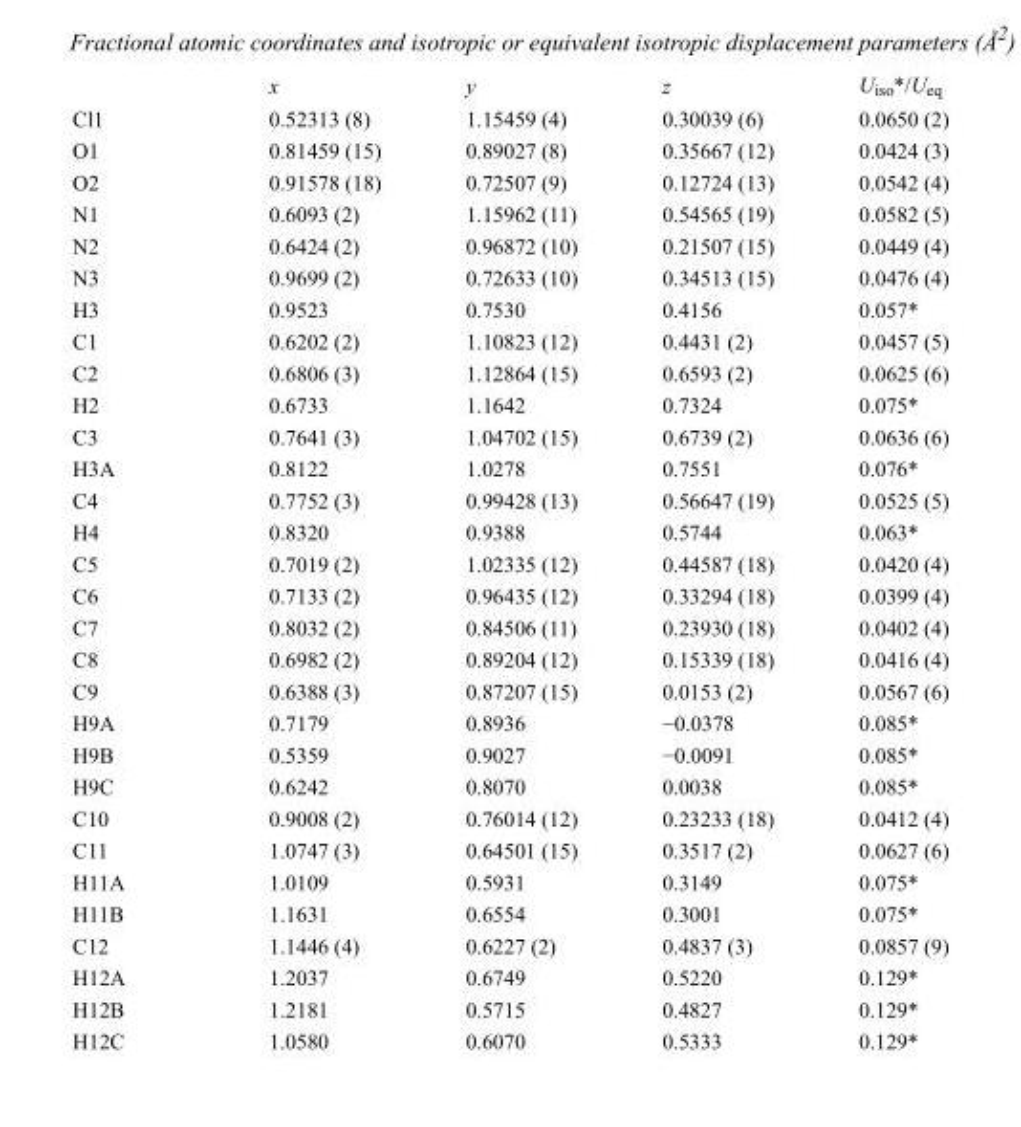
<table><thead><tr><td></td><td>x</td><td>y</td><td>z</td><td>U<sub>iso</sub>*/U<sub>eq</sub></td></tr></thead><tbody><tr><td>Cl1</td><td>0.52313 (8)</td><td>1.15459 (4)</td><td>0.30039 (6)</td><td>0.0650 (2)</td></tr><tr><td>O1</td><td>0.81459 (15)</td><td>0.89027 (8)</td><td>0.35667 (12)</td><td>0.0424 (3)</td></tr><tr><td>O2</td><td>0.91578 (18)</td><td>0.72507 (9)</td><td>0.12724 (13)</td><td>0.0542 (4)</td></tr><tr><td>N1</td><td>0.6093 (2)</td><td>1.15962 (11)</td><td>0.54565 (19)</td><td>0.0582 (5)</td></tr><tr><td>N2</td><td>0.6424 (2)</td><td>0.96872 (10)</td><td>0.21507 (15)</td><td>0.0449 (4)</td></tr><tr><td>N3</td><td>0.9699 (2)</td><td>0.72633 (10)</td><td>0.34513 (15)</td><td>0.0476 (4)</td></tr><tr><td>H3</td><td>0.9523</td><td>0.7530</td><td>0.4156</td><td>0.057*</td></tr><tr><td>C1</td><td>0.6202 (2)</td><td>1.10823 (12)</td><td>0.4431 (2)</td><td>0.0457 (5)</td></tr><tr><td>C2</td><td>0.6806 (3)</td><td>1.12864 (15)</td><td>0.6593 (2)</td><td>0.0625 (6)</td></tr><tr><td>H2</td><td>0.6733</td><td>1.1642</td><td>0.7324</td><td>0.075*</td></tr><tr><td>C3</td><td>0.7641 (3)</td><td>1.04702 (15)</td><td>0.6739 (2)</td><td>0.0636 (6)</td></tr><tr><td>H3A</td><td>0.8122</td><td>1.0278</td><td>0.7551</td><td>0.076*</td></tr><tr><td>C4</td><td>0.7752 (3)</td><td>0.99428 (13)</td><td>0.56647 (19)</td><td>0.0525 (5)</td></tr><tr><td>H4</td><td>0.8320</td><td>0.9388</td><td>0.5744</td><td>0.063*</td></tr><tr><td>C5</td><td>0.7019 (2)</td><td>1.02335 (12)</td><td>0.44587 (18)</td><td>0.0420 (4)</td></tr><tr><td>C6</td><td>0.7133 (2)</td><td>0.96435 (12)</td><td>0.33294 (18)</td><td>0.0399 (4)</td></tr><tr><td>C7</td><td>0.8032 (2)</td><td>0.84506 (11)</td><td>0.23930 (18)</td><td>0.0402 (4)</td></tr><tr><td>C8</td><td>0.6982 (2)</td><td>0.89204 (12)</td><td>0.15339 (18)</td><td>0.0416 (4)</td></tr><tr><td>C9</td><td>0.6388 (3)</td><td>0.87207 (15)</td><td>0.0153 (2)</td><td>0.0567 (6)</td></tr><tr><td>H9A</td><td>0.7179</td><td>0.8936</td><td>−0.0378</td><td>0.085*</td></tr><tr><td>H9B</td><td>0.5359</td><td>0.9027</td><td>−0.0091</td><td>0.085*</td></tr><tr><td>H9C</td><td>0.6242</td><td>0.8070</td><td>0.0038</td><td>0.085*</td></tr><tr><td>C10</td><td>0.9008 (2)</td><td>0.76014 (12)</td><td>0.23233 (18)</td><td>0.0412 (4)</td></tr><tr><td>C11</td><td>1.0747 (3)</td><td>0.64501 (15)</td><td>0.3517 (2)</td><td>0.0627 (6)</td></tr><tr><td>H11A</td><td>1.0109</td><td>0.5931</td><td>0.3149</td><td>0.075*</td></tr><tr><td>H11B</td><td>1.1631</td><td>0.6554</td><td>0.3001</td><td>0.075*</td></tr><tr><td>C12</td><td>1.1446 (4)</td><td>0.6227 (2)</td><td>0.4837 (3)</td><td>0.0857 (9)</td></tr><tr><td>H12A</td><td>1.2037</td><td>0.6749</td><td>0.5220</td><td>0.129*</td></tr><tr><td>H12B</td><td>1.2181</td><td>0.5715</td><td>0.4827</td><td>0.129*</td></tr><tr><td>H12C</td><td>1.0580</td><td>0.6070</td><td>0.5333</td><td>0.129*</td></tr></tbody></table>